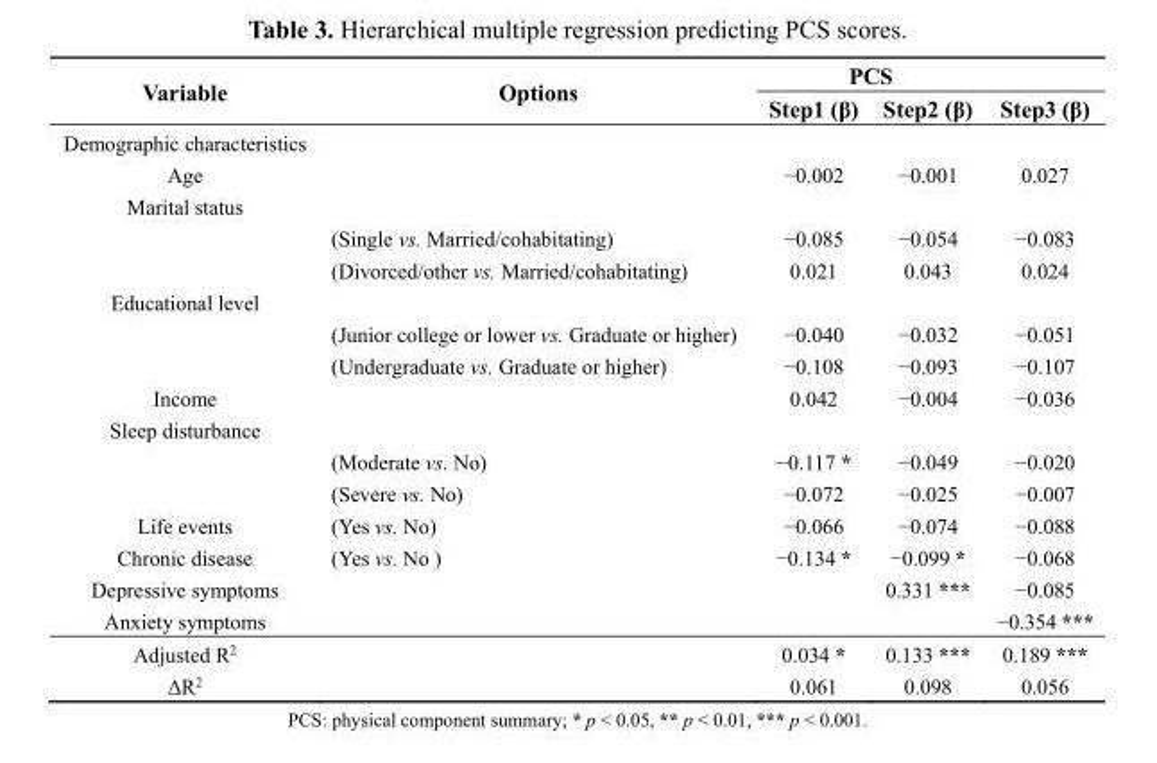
<table><thead><tr><td rowspan="2">Variable</td><td rowspan="2">Options</td><td colspan="2">PCS</td><td rowspan="2">Step3 (β)</td></tr><tr><td>Step1 (β)</td><td>Step2 (β)</td></tr></thead><tbody><tr><td colspan="5">Demographic characteristics</td></tr><tr><td>Age</td><td></td><td>−0.002</td><td>−0.001</td><td>0.027</td></tr><tr><td colspan="5">Marital status</td></tr><tr><td></td><td>(Single vs. Married/cohabitating)</td><td>−0.085</td><td>−0.054</td><td>−0.083</td></tr><tr><td></td><td>(Divorced/other vs. Married/cohabitating)</td><td>0.021</td><td>0.043</td><td>0.024</td></tr><tr><td colspan="5">Educational level</td></tr><tr><td></td><td>(Junior college or lower vs. Graduate or higher)</td><td>−0.040</td><td>−0.032</td><td>−0.051</td></tr><tr><td></td><td>(Undergraduate vs. Graduate or higher)</td><td>−0.108</td><td>−0.093</td><td>−0.107</td></tr><tr><td>Income</td><td></td><td>0.042</td><td>−0.004</td><td>−0.036</td></tr><tr><td colspan="5">Sleep disturbance</td></tr><tr><td></td><td>(Moderate vs. No)</td><td>−0.117 *</td><td>−0.049</td><td>−0.020</td></tr><tr><td></td><td>(Severe vs. No)</td><td>−0.072</td><td>−0.025</td><td>−0.007</td></tr><tr><td>Life events</td><td>(Yes vs. No)</td><td>−0.066</td><td>−0.074</td><td>−0.088</td></tr><tr><td>Chronic disease</td><td>(Yes vs. No )</td><td>−0.134 *</td><td>−0.099 *</td><td>−0.068</td></tr><tr><td>Depressive symptoms</td><td></td><td></td><td>0.331 ***</td><td>−0.085</td></tr><tr><td>Anxiety symptoms</td><td></td><td></td><td></td><td>−0.354 ***</td></tr><tr><td>Adjusted R<sup>2</sup></td><td></td><td>0.034 *</td><td>0.133 ***</td><td>0.189 ***</td></tr><tr><td>ΔR<sup>2</sup></td><td></td><td>0.061</td><td>0.098</td><td>0.056</td></tr></tbody></table>